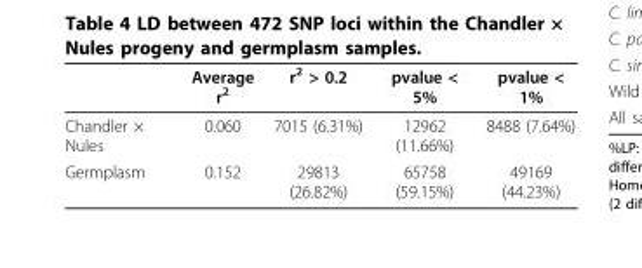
<table><thead><tr><td></td><td>Average r<sup>2</sup></td><td>r<sup>2</sup> &gt; 0.2</td><td>pvalue &lt; 5%</td><td>pvalue &lt; 1%</td></tr></thead><tbody><tr><td>Chandler × Nules</td><td>0.060</td><td>7015 (6.31%)</td><td>12962 (11.66%)</td><td>8488 (7.64%)</td></tr><tr><td>Germplasm</td><td>0.152</td><td>29813 (26.82%)</td><td>65758 (59.15%)</td><td>49169 (44.23%)</td></tr></tbody></table>